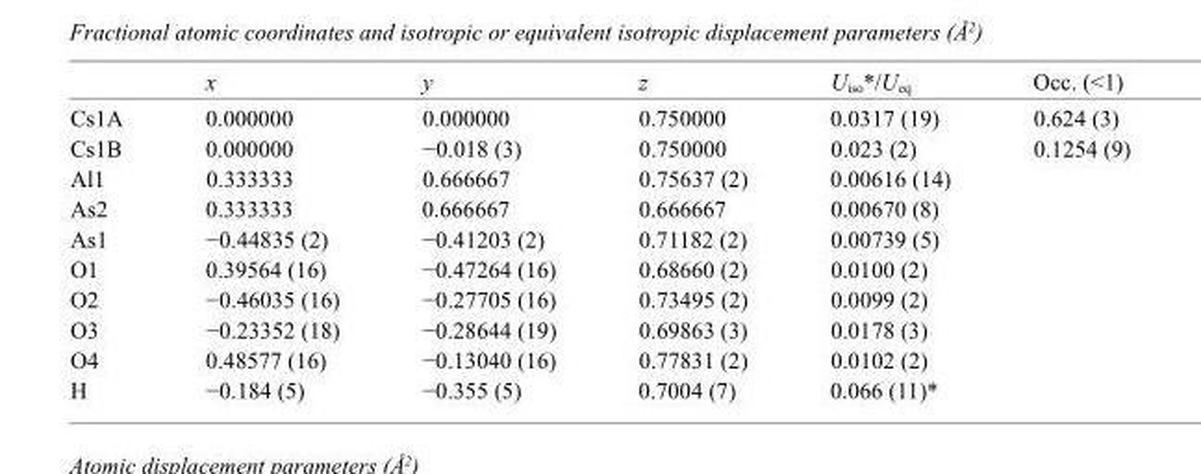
<table><thead><tr><td></td><td>x</td><td>y</td><td>z</td><td>U<sub>iso</sub>*/U<sub>eq</sub></td><td>Occ. (&lt;1)</td></tr></thead><tbody><tr><td>Cs1A</td><td>0.000000</td><td>0.000000</td><td>0.750000</td><td>0.0317 (19)</td><td>0.624 (3)</td></tr><tr><td>Cs1B</td><td>0.000000</td><td>−0.018 (3)</td><td>0.750000</td><td>0.023 (2)</td><td>0.1254 (9)</td></tr><tr><td>Al1</td><td>0.333333</td><td>0.666667</td><td>0.75637 (2)</td><td>0.00616 (14)</td><td></td></tr><tr><td>As2</td><td>0.333333</td><td>0.666667</td><td>0.666667</td><td>0.00670 (8)</td><td></td></tr><tr><td>As1</td><td>−0.44835 (2)</td><td>−0.41203 (2)</td><td>0.71182 (2)</td><td>0.00739 (5)</td><td></td></tr><tr><td>O1</td><td>0.39564 (16)</td><td>−0.47264 (16)</td><td>0.68660 (2)</td><td>0.0100 (2)</td><td></td></tr><tr><td>O2</td><td>−0.46035 (16)</td><td>−0.27705 (16)</td><td>0.73495 (2)</td><td>0.0099 (2)</td><td></td></tr><tr><td>O3</td><td>−0.23352 (18)</td><td>−0.28644 (19)</td><td>0.69863 (3)</td><td>0.0178 (3)</td><td></td></tr><tr><td>O4</td><td>0.48577 (16)</td><td>−0.13040 (16)</td><td>0.77831 (2)</td><td>0.0102 (2)</td><td></td></tr><tr><td>H</td><td>−0.184 (5)</td><td>−0.355 (5)</td><td>0.7004 (7)</td><td>0.066 (11)*</td><td></td></tr></tbody></table>